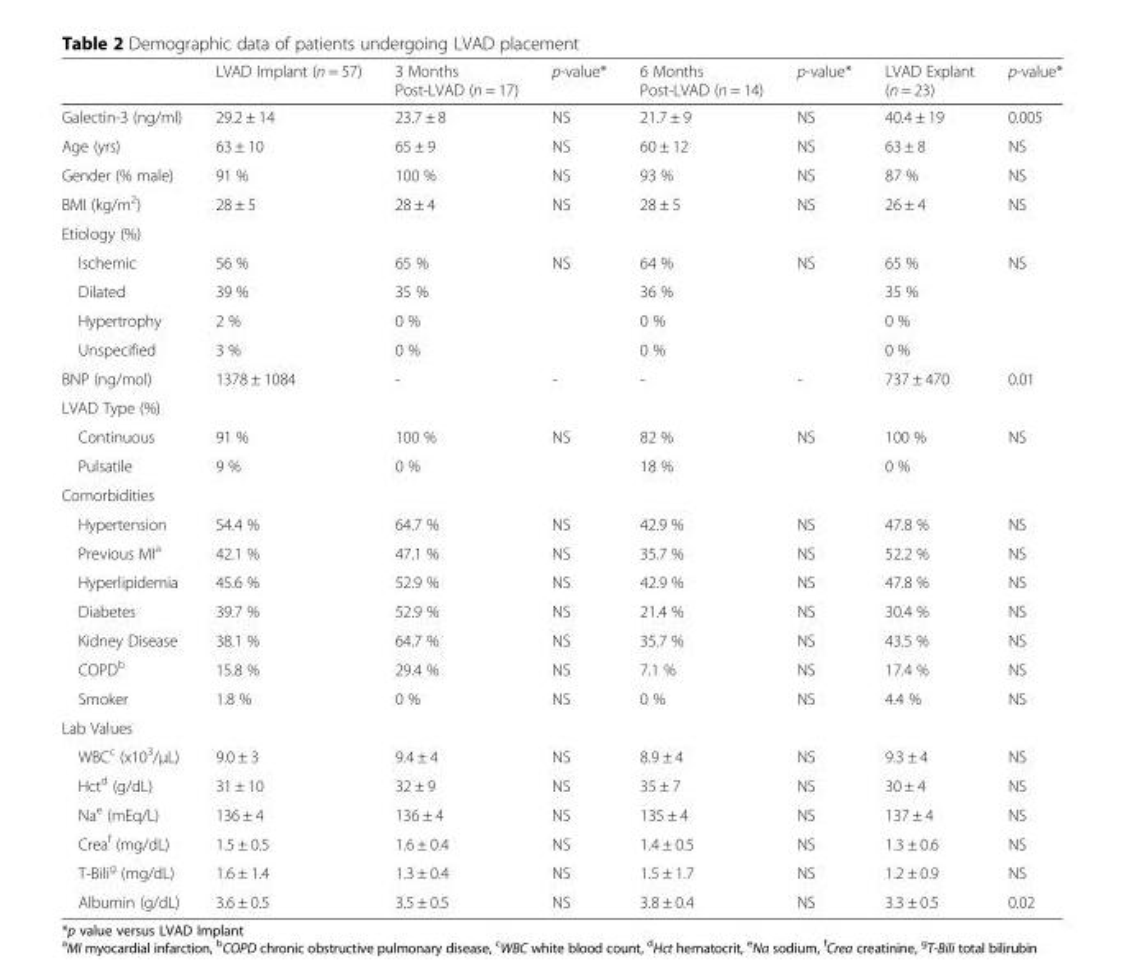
<table><thead><tr><td></td><td>LVAD Implant (n = 57)</td><td>3 Months Post-LVAD (n = 17)</td><td>p-value*</td><td>6 Months Post-LVAD (n = 14)</td><td>p-value*</td><td>LVAD Explant (n = 23)</td><td>p-value*</td></tr></thead><tbody><tr><td>Galectin-3 (ng/ml)</td><td>29.2 ± 14</td><td>23.7 ± 8</td><td>NS</td><td>21.7 ± 9</td><td>NS</td><td>40.4 ± 19</td><td>0.005</td></tr><tr><td>Age (yrs)</td><td>63 ± 10</td><td>65 ± 9</td><td>NS</td><td>60 ± 12</td><td>NS</td><td>63 ± 8</td><td>NS</td></tr><tr><td>Gender (% male)</td><td>91 %</td><td>100 %</td><td>NS</td><td>93 %</td><td>NS</td><td>87 %</td><td>NS</td></tr><tr><td>BMI (kg/m<sup>2</sup>)</td><td>28 ± 5</td><td>28 ± 4</td><td>NS</td><td>28 ± 5</td><td>NS</td><td>26 ± 4</td><td>NS</td></tr><tr><td colspan="8">Etiology (%)</td></tr><tr><td>Ischemic</td><td>56 %</td><td>65 %</td><td>NS</td><td>64 %</td><td>NS</td><td>65 %</td><td>NS</td></tr><tr><td>Dilated</td><td>39 %</td><td>35 %</td><td></td><td>36 %</td><td></td><td>35 %</td><td></td></tr><tr><td>Hypertrophy</td><td>2 %</td><td>0 %</td><td></td><td>0 %</td><td></td><td>0 %</td><td></td></tr><tr><td>Unspecified</td><td>3 %</td><td>0 %</td><td></td><td>0 %</td><td></td><td>0 %</td><td></td></tr><tr><td>BNP (ng/mol)</td><td>1378 ± 1084</td><td>-</td><td>-</td><td>-</td><td>-</td><td>737 ± 470</td><td>0.01</td></tr><tr><td colspan="8">LVAD Type (%)</td></tr><tr><td>Continuous</td><td>91 %</td><td>100 %</td><td>NS</td><td>82 %</td><td>NS</td><td>100 %</td><td>NS</td></tr><tr><td>Pulsatile</td><td>9 %</td><td>0 %</td><td></td><td>18 %</td><td></td><td>0 %</td><td></td></tr><tr><td colspan="8">Comorbidities</td></tr><tr><td>Hypertension</td><td>54.4 %</td><td>64.7 %</td><td>NS</td><td>42.9 %</td><td>NS</td><td>47.8 %</td><td>NS</td></tr><tr><td>Previous MI<sup>a</sup></td><td>42.1 %</td><td>47.1 %</td><td>NS</td><td>35.7 %</td><td>NS</td><td>52.2 %</td><td>NS</td></tr><tr><td>Hyperlipidemia</td><td>45.6 %</td><td>52.9 %</td><td>NS</td><td>42.9 %</td><td>NS</td><td>47.8 %</td><td>NS</td></tr><tr><td>Diabetes</td><td>39.7 %</td><td>52.9 %</td><td>NS</td><td>21.4 %</td><td>NS</td><td>30.4 %</td><td>NS</td></tr><tr><td>Kidney Disease</td><td>38.1 %</td><td>64.7 %</td><td>NS</td><td>35.7 %</td><td>NS</td><td>43.5 %</td><td>NS</td></tr><tr><td>COPD<sup>b</sup></td><td>15.8 %</td><td>29.4 %</td><td>NS</td><td>7.1 %</td><td>NS</td><td>17.4 %</td><td>NS</td></tr><tr><td>Smoker</td><td>1.8 %</td><td>0 %</td><td>NS</td><td>0 %</td><td>NS</td><td>4.4 %</td><td>NS</td></tr><tr><td colspan="8">Lab Values</td></tr><tr><td>WBC<sup>c</sup> (x10<sup>3</sup>/μL)</td><td>9.0 ± 3</td><td>9.4 ± 4</td><td>NS</td><td>8.9 ± 4</td><td>NS</td><td>9.3 ± 4</td><td>NS</td></tr><tr><td>Hct<sup>d</sup> (g/dL)</td><td>31 ± 10</td><td>32 ± 9</td><td>NS</td><td>35 ± 7</td><td>NS</td><td>30 ± 4</td><td>NS</td></tr><tr><td>Na<sup>e</sup> (mEq/L)</td><td>136 ± 4</td><td>136 ± 4</td><td>NS</td><td>135 ± 4</td><td>NS</td><td>137 ± 4</td><td>NS</td></tr><tr><td>Crea<sup>f</sup> (mg/dL)</td><td>1.5 ± 0.5</td><td>1.6 ± 0.4</td><td>NS</td><td>1.4 ± 0.5</td><td>NS</td><td>1.3 ± 0.6</td><td>NS</td></tr><tr><td>T-Bili<sup>g</sup> (mg/dL)</td><td>1.6 ± 1.4</td><td>1.3 ± 0.4</td><td>NS</td><td>1.5 ± 1.7</td><td>NS</td><td>1.2 ± 0.9</td><td>NS</td></tr><tr><td>Albumin (g/dL)</td><td>3.6 ± 0.5</td><td>3.5 ± 0.5</td><td>NS</td><td>3.8 ± 0.4</td><td>NS</td><td>3.3 ± 0.5</td><td>0.02</td></tr></tbody></table>